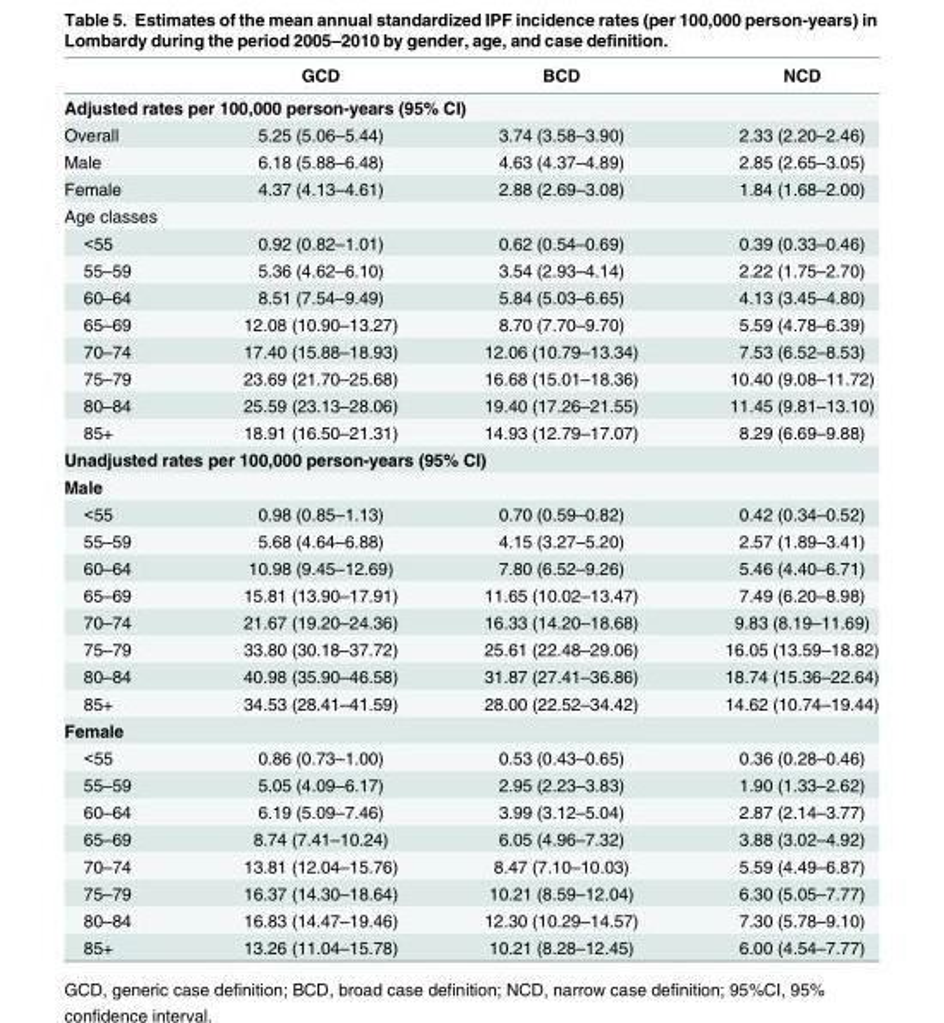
<table><thead><tr><td></td><td>GCD</td><td>BCD</td><td>NCD</td></tr></thead><tbody><tr><td colspan="4">Adjusted rates per 100,000 person-years (95% CI)</td></tr><tr><td>Overall</td><td>5.25 (5.06–5.44)</td><td>3.74 (3.58–3.90)</td><td>2.33 (2.20–2.46)</td></tr><tr><td>Male</td><td>6.18 (5.88–6.48)</td><td>4.63 (4.37–4.89)</td><td>2.85 (2.65–3.05)</td></tr><tr><td>Female</td><td>4.37 (4.13–4.61)</td><td>2.88 (2.69–3.08)</td><td>1.84 (1.68–2.00)</td></tr><tr><td colspan="4">Age classes</td></tr><tr><td>&lt;55</td><td>0.92 (0.82–1.01)</td><td>0.62 (0.54–0.69)</td><td>0.39 (0.33–0.46)</td></tr><tr><td>55–59</td><td>5.36 (4.62–6.10)</td><td>3.54 (2.93–4.14)</td><td>2.22 (1.75–2.70)</td></tr><tr><td>60–64</td><td>8.51 (7.54–9.49)</td><td>5.84 (5.03–6.65)</td><td>4.13 (3.45–4.80)</td></tr><tr><td>65–69</td><td>12.08 (10.90–13.27)</td><td>8.70 (7.70–9.70)</td><td>5.59 (4.78–6.39)</td></tr><tr><td>70–74</td><td>17.40 (15.88–18.93)</td><td>12.06 (10.79–13.34)</td><td>7.53 (6.52–8.53)</td></tr><tr><td>75–79</td><td>23.69 (21.70–25.68)</td><td>16.68 (15.01–18.36)</td><td>10.40 (9.08–11.72)</td></tr><tr><td>80–84</td><td>25.59 (23.13–28.06)</td><td>19.40 (17.26–21.55)</td><td>11.45 (9.81–13.10)</td></tr><tr><td>85+</td><td>18.91 (16.50–21.31)</td><td>14.93 (12.79–17.07)</td><td>8.29 (6.69–9.88)</td></tr><tr><td colspan="4">Unadjusted rates per 100,000 person-years (95% CI)</td></tr><tr><td colspan="4">Male</td></tr><tr><td>&lt;55</td><td>0.98 (0.85–1.13)</td><td>0.70 (0.59–0.82)</td><td>0.42 (0.34–0.52)</td></tr><tr><td>55–59</td><td>5.68 (4.64–6.88)</td><td>4.15 (3.27–5.20)</td><td>2.57 (1.89–3.41)</td></tr><tr><td>60–64</td><td>10.98 (9.45–12.69)</td><td>7.80 (6.52–9.26)</td><td>5.46 (4.40–6.71)</td></tr><tr><td>65–69</td><td>15.81 (13.90–17.91)</td><td>11.65 (10.02–13.47)</td><td>7.49 (6.20–8.98)</td></tr><tr><td>70–74</td><td>21.67 (19.20–24.36)</td><td>16.33 (14.20–18.68)</td><td>9.83 (8.19–11.69)</td></tr><tr><td>75–79</td><td>33.80 (30.18–37.72)</td><td>25.61 (22.48–29.06)</td><td>16.05 (13.59–18.82)</td></tr><tr><td>80–84</td><td>40.98 (35.90–46.58)</td><td>31.87 (27.41–36.86)</td><td>18.74 (15.36–22.64)</td></tr><tr><td>85+</td><td>34.53 (28.41–41.59)</td><td>28.00 (22.52–34.42)</td><td>14.62 (10.74–19.44)</td></tr><tr><td colspan="4">Female</td></tr><tr><td>&lt;55</td><td>0.86 (0.73–1.00)</td><td>0.53 (0.43–0.65)</td><td>0.36 (0.28–0.46)</td></tr><tr><td>55–59</td><td>5.05 (4.09–6.17)</td><td>2.95 (2.23–3.83)</td><td>1.90 (1.33–2.62)</td></tr><tr><td>60–64</td><td>6.19 (5.09–7.46)</td><td>3.99 (3.12–5.04)</td><td>2.87 (2.14–3.77)</td></tr><tr><td>65–69</td><td>8.74 (7.41–10.24)</td><td>6.05 (4.96–7.32)</td><td>3.88 (3.02–4.92)</td></tr><tr><td>70–74</td><td>13.81 (12.04–15.76)</td><td>8.47 (7.10–10.03)</td><td>5.59 (4.49–6.87)</td></tr><tr><td>75–79</td><td>16.37 (14.30–18.64)</td><td>10.21 (8.59–12.04)</td><td>6.30 (5.05–7.77)</td></tr><tr><td>80–84</td><td>16.83 (14.47–19.46)</td><td>12.30 (10.29–14.57)</td><td>7.30 (5.78–9.10)</td></tr><tr><td>85+</td><td>13.26 (11.04–15.78)</td><td>10.21 (8.28–12.45)</td><td>6.00 (4.54–7.77)</td></tr></tbody></table>